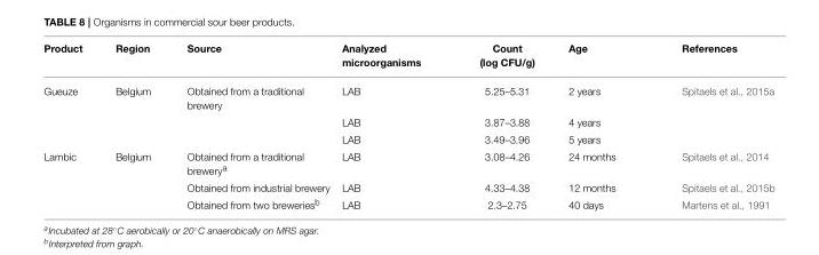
<table><thead><tr><td>Product</td><td>Region</td><td>Source</td><td>Analyzed microorganisms</td><td>Count (log CFU/g)</td><td>Age</td><td>References</td></tr></thead><tbody><tr><td rowspan="3">Gueuze</td><td>Belgium</td><td>Obtained from a traditional brewery</td><td>LAB</td><td>5.25–5.31</td><td>2 years</td><td>Spitaels et al., 2015a</td></tr><tr><td></td><td></td><td>LAB</td><td>3.87–3.88</td><td>4 years</td><td></td></tr><tr><td></td><td></td><td>LAB</td><td>3.49–3.96</td><td>5 years</td><td></td></tr><tr><td rowspan="3">Lambic</td><td>Belgium</td><td>Obtained from a traditional brewery<sup>a</sup></td><td>LAB</td><td>3.08–4.26</td><td>24 months</td><td>Spitaels et al., 2014</td></tr><tr><td></td><td>Obtained from industrial brewery</td><td>LAB</td><td>4.33–4.38</td><td>12 months</td><td>Spitaels et al., 2015b</td></tr><tr><td></td><td>Obtained from two breweries<sup>b</sup></td><td>LAB</td><td>2.3–2.75</td><td>40 days</td><td>Martens et al., 1991</td></tr></tbody></table>